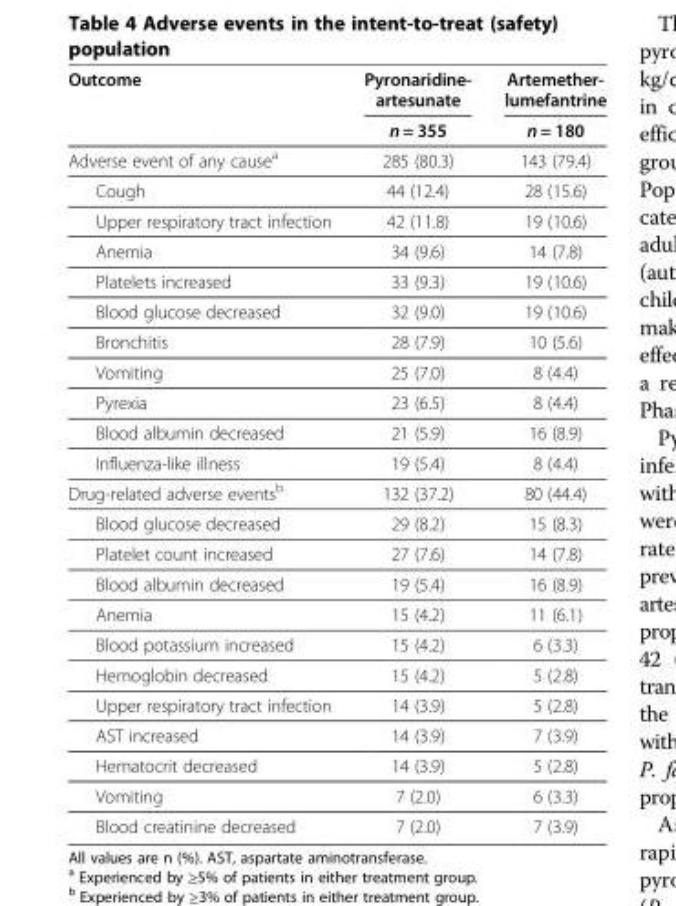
<table><thead><tr><td rowspan="2">Outcome</td><td rowspan="2">Pyronaridine- artesunate n = 355</td><td rowspan="2">Artemether- lumefantrine n = 180</td></tr><tr></tr></thead><tbody><tr><td>Adverse event of any cause<sup>a</sup></td><td>285 (80.3)</td><td>143 (79.4)</td></tr><tr><td>Cough</td><td>44 (12.4)</td><td>28 (15.6)</td></tr><tr><td>Upper respiratory tract infection</td><td>42 (11.8)</td><td>19 (10.6)</td></tr><tr><td>Anemia</td><td>34 (9.6)</td><td>14 (7.8)</td></tr><tr><td>Platelets increased</td><td>33 (9.3)</td><td>19 (10.6)</td></tr><tr><td>Blood glucose decreased</td><td>32 (9.0)</td><td>19 (10.6)</td></tr><tr><td>Bronchitis</td><td>28 (7.9)</td><td>10 (5.6)</td></tr><tr><td>Vomiting</td><td>25 (7.0)</td><td>8 (4.4)</td></tr><tr><td>Pyrexia</td><td>23 (6.5)</td><td>8 (4.4)</td></tr><tr><td>Blood albumin decreased</td><td>21 (5.9)</td><td>16 (8.9)</td></tr><tr><td>Influenza-like illness</td><td>19 (5.4)</td><td>8 (4.4)</td></tr><tr><td>Drug-related adverse events<sup>b</sup></td><td>132 (37.2)</td><td>80 (44.4)</td></tr><tr><td>Blood glucose decreased</td><td>29 (8.2)</td><td>15 (8.3)</td></tr><tr><td>Platelet count increased</td><td>27 (7.6)</td><td>14 (7.8)</td></tr><tr><td>Blood albumin decreased</td><td>19 (5.4)</td><td>16 (8.9)</td></tr><tr><td>Anemia</td><td>15 (4.2)</td><td>11 (6.1)</td></tr><tr><td>Blood potassium increased</td><td>15 (4.2)</td><td>6 (3.3)</td></tr><tr><td>Hemoglobin decreased</td><td>15 (4.2)</td><td>5 (2.8)</td></tr><tr><td>Upper respiratory tract infection</td><td>14 (3.9)</td><td>5 (2.8)</td></tr><tr><td>AST increased</td><td>14 (3.9)</td><td>7 (3.9)</td></tr><tr><td>Hematocrit decreased</td><td>14 (3.9)</td><td>5 (2.8)</td></tr><tr><td>Vomiting</td><td>7 (2.0)</td><td>6 (3.3)</td></tr><tr><td>Blood creatinine decreased</td><td>7 (2.0)</td><td>7 (3.9)</td></tr></tbody></table>